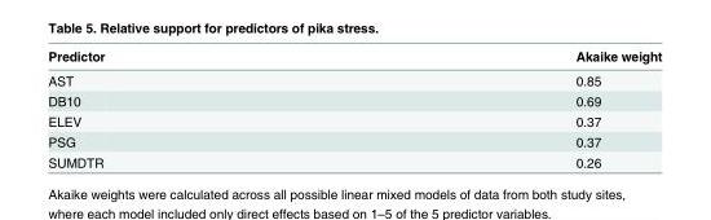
<table><thead><tr><td>Predictor</td><td>Akaike weight</td></tr></thead><tbody><tr><td>AST</td><td>0.85</td></tr><tr><td>DB10</td><td>0.69</td></tr><tr><td>ELEV</td><td>0.37</td></tr><tr><td>PSG</td><td>0.37</td></tr><tr><td>SUMDTR</td><td>0.26</td></tr></tbody></table>